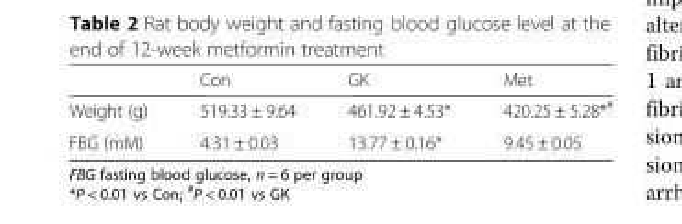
<table><thead><tr><td></td><td>Con</td><td>GK</td><td>Met</td></tr></thead><tbody><tr><td>Weight (g)</td><td>519.33 ± 9.64</td><td>461.92 ± 4.53*</td><td>420.25 ± 5.28*<sup>#</sup></td></tr><tr><td>FBG (mM)</td><td>4.31 ± 0.03</td><td>13.77 ± 0.16*</td><td>9.45 ± 0.05</td></tr></tbody></table>